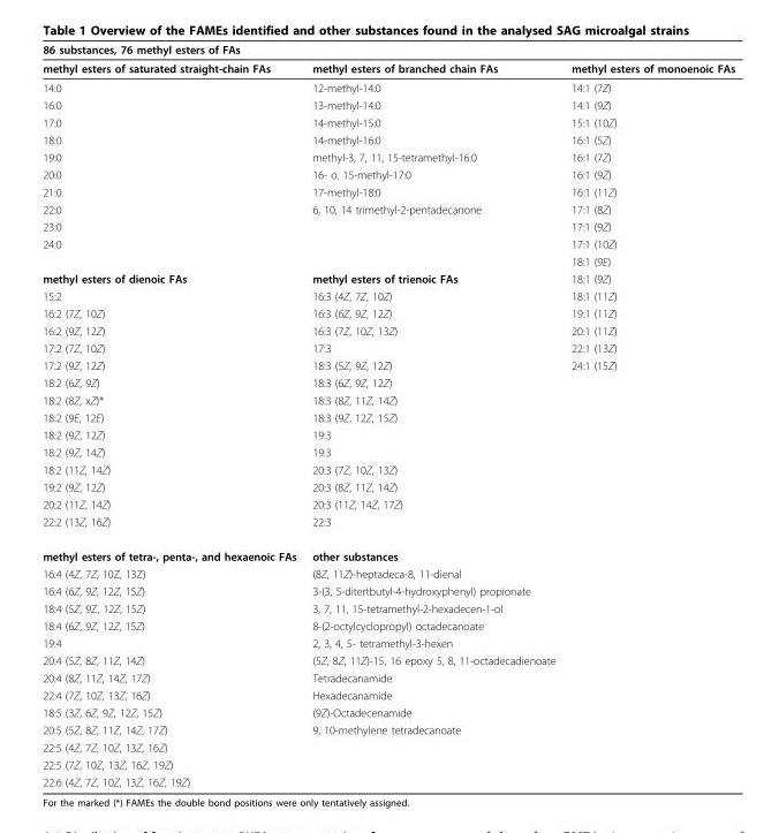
<table><thead><tr><td colspan="3">86 substances, 76 methyl esters of FAs</td></tr><tr><td>methyl esters of saturated straight-chain FAs</td><td>methyl esters of branched chain FAs</td><td>methyl esters of monoenoic FAs</td></tr></thead><tbody><tr><td>14:0</td><td>12-methyl-14:0</td><td>14:1 (7Z)</td></tr><tr><td>16:0</td><td>13-methyl-14:0</td><td>14:1 (9Z)</td></tr><tr><td>17:0</td><td>14-methyl-15:0</td><td>15:1 (10Z)</td></tr><tr><td>18:0</td><td>14-methyl-16:0</td><td>16:1 (5Z)</td></tr><tr><td>19:0</td><td>methyl-3, 7, 11, 15-tetramethyl-16:0</td><td>16:1 (7Z)</td></tr><tr><td>20:0</td><td>16- o. 15-methyl-17:0</td><td>16:1 (9Z)</td></tr><tr><td>21:0</td><td>17-methyl-18:0</td><td>16:1 (11Z)</td></tr><tr><td>22:0</td><td>6, 10, 14 trimethyl-2-pentadecanone</td><td>17:1 (8Z)</td></tr><tr><td>23:0</td><td></td><td>17:1 (9Z)</td></tr><tr><td rowspan="2">24:0</td><td></td><td>17:1 (10Z)</td></tr><tr><td></td><td>18:1 (9E)</td></tr><tr><td>methyl esters of dienoic FAs</td><td>methyl esters of trienoic FAs</td><td>18:1 (9Z)</td></tr><tr><td>15:2</td><td>16:3 (4Z, 7Z, 10Z)</td><td>18:1 (11Z)</td></tr><tr><td>16:2 (7Z, 10Z)</td><td>16:3 (6Z, 9Z, 12Z)</td><td>19:1 (11Z)</td></tr><tr><td>16:2 (9Z, 12Z)</td><td>16:3 (7Z, 10Z, 13Z)</td><td>20:1 (11Z)</td></tr><tr><td>17:2 (7Z, 10Z)</td><td>17:3</td><td>22:1 (13Z)</td></tr><tr><td>17:2 (9Z, 12Z)</td><td>18:3 (5Z, 9Z, 12Z)</td><td>24:1 (15Z)</td></tr><tr><td>18:2 (6Z, 9Z)</td><td>18:3 (6Z, 9Z, 12Z)</td><td></td></tr><tr><td>18:2 (8Z, xZ)*</td><td>18:3 (8Z, 11Z, 14Z)</td><td></td></tr><tr><td>18:2 (9E, 12E)</td><td>18:3 (9Z, 12Z, 15Z)</td><td></td></tr><tr><td>18:2 (9Z, 12Z)</td><td>19:3</td><td></td></tr><tr><td>18:2 (9Z, 14Z)</td><td>19:3</td><td></td></tr><tr><td>18:2 (11Z, 14Z)</td><td>20:3 (7Z, 10Z, 13Z)</td><td></td></tr><tr><td>19:2 (9Z, 12Z)</td><td>20:3 (8Z, 11Z, 14Z)</td><td></td></tr><tr><td>20:2 (11Z, 14Z)</td><td>20:3 (11Z, 14Z, 17Z)</td><td></td></tr><tr><td>22:2 (13Z, 16Z)</td><td>22:3</td><td></td></tr><tr><td>methyl esters of tetra-, penta-, and hexaenoic FAs</td><td>other substances</td><td></td></tr><tr><td>16:4 (4Z, 7Z, 10Z, 13Z)</td><td colspan="2">(8Z, 11Z)-heptadeca-8, 11-dienal</td></tr><tr><td>16:4 (6Z, 9Z, 12Z, 15Z)</td><td>3-(3, 5-ditertbutyl-4-hydroxyphenyl) propionate</td><td></td></tr><tr><td>18:4 (5Z, 9Z, 12Z, 15Z)</td><td colspan="2">3, 7, 11, 15-tetramethyl-2-hexadecen-1-ol</td></tr><tr><td>18:4 (6Z, 9Z, 12Z, 15Z)</td><td colspan="2">8-(2-octylcyclopropyl) octadecanoate</td></tr><tr><td>19:4</td><td>2, 3, 4, 5- tetramethyl-3-hexen</td><td></td></tr><tr><td>20:4 (5Z, 8Z, 11Z, 14Z)</td><td>(5Z, 8Z, 11Z)-15, 16 epoxy 5, 8, 11-octadecadienoate</td><td></td></tr><tr><td>20:4 (8Z, 11Z, 14Z, 17Z)</td><td>Tetradecanamide</td><td></td></tr><tr><td>22:4 (7Z, 10Z, 13Z, 16Z)</td><td>Hexadecanamide</td><td></td></tr><tr><td>18:5 (3Z, 6Z, 9Z, 12Z, 15Z)</td><td>(9Z)-Octadecenamide</td><td></td></tr><tr><td>20:5 (5Z, 8Z, 11Z, 14Z, 17Z)</td><td>9, 10-methylene tetradecanoate</td><td></td></tr><tr><td colspan="3">22:5 (4Z, 7Z, 10Z, 13Z, 16Z)</td></tr><tr><td colspan="3">22:5 (7Z, 10Z, 13Z, 16Z, 19Z)</td></tr><tr><td>22:6 (4Z, 7Z, 10Z, 13Z, 16Z, 19Z)</td><td></td><td></td></tr></tbody></table>